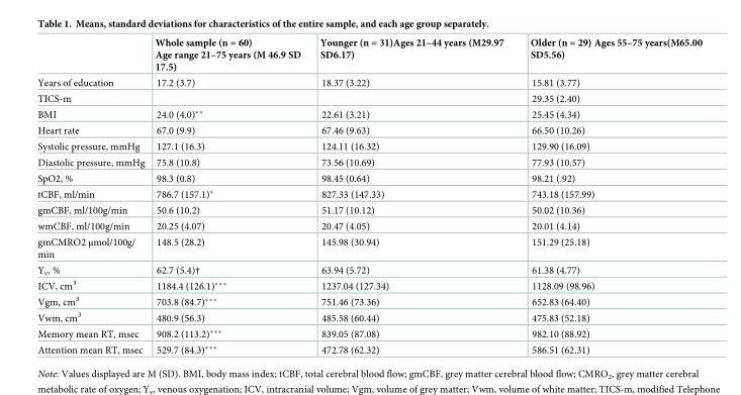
<table><thead><tr><td></td><td>Whole sample (n = 60) Age range 21–75 years (M 46.9 SD 17.5)</td><td>Younger (n = 31)Ages 21–44 years (M29.97 SD6.17)</td><td>Older (n = 29) Ages 55–75 years(M65.00 SD5.56)</td></tr></thead><tbody><tr><td>Years of education</td><td>17.2 (3.7)</td><td>18.37 (3.22)</td><td>15.81 (3.77)</td></tr><tr><td>TICS-m</td><td></td><td></td><td>29.35 (2.40)</td></tr><tr><td>BMI</td><td>24.0 (4.0)**</td><td>22.61 (3.21)</td><td>25.45 (4.34)</td></tr><tr><td>Heart rate</td><td>67.0 (9.9)</td><td>67.46 (9.63)</td><td>66.50 (10.26)</td></tr><tr><td>Systolic pressure, mmHg</td><td>127.1 (16.3)</td><td>124.11 (16.32)</td><td>129.90 (16.09)</td></tr><tr><td>Diastolic pressure, mmHg</td><td>75.8 (10.8)</td><td>73.56 (10.69)</td><td>77.93 (10.57)</td></tr><tr><td>SpO2, %</td><td>98.3 (0.8)</td><td>98.45 (0.64)</td><td>98.21 (.92)</td></tr><tr><td>tCBF, ml/min</td><td>786.7 (157.1)*</td><td>827.33 (147.33)</td><td>743.18 (157.99)</td></tr><tr><td>gmCBF, ml/100g/min</td><td>50.6 (10.2)</td><td>51.17 (10.12)</td><td>50.02 (10.36)</td></tr><tr><td>wmCBF, ml/100g/min</td><td>20.25 (4.07)</td><td>20.47 (4.05)</td><td>20.01 (4.14)</td></tr><tr><td>gmCMRO2 μmol/100g/ min</td><td>148.5 (28.2)</td><td>145.98 (30.94)</td><td>151.29 (25.18)</td></tr><tr><td>Y<sub>v</sub>, %</td><td>62.7 (5.4)†</td><td>63.94 (5.72)</td><td>61.38 (4.77)</td></tr><tr><td>ICV, cm<sup>3</sup></td><td>1184.4 (126.1)***</td><td>1237.04 (127.34)</td><td>1128.09 (98.96)</td></tr><tr><td>Vgm, cm<sup>3</sup></td><td>703.8 (84.7)***</td><td>751.46 (73.36)</td><td>652.83 (64.40)</td></tr><tr><td>Vwm, cm<sup>3</sup></td><td>480.9 (56.3)</td><td>485.58 (60.44)</td><td>475.83 (52.18)</td></tr><tr><td>Memory mean RT, msec</td><td>908.2 (113.2)***</td><td>839.05 (87.08)</td><td>982.10 (88.92)</td></tr><tr><td>Attention mean RT, msec</td><td>529.7 (84.3)***</td><td>472.78 (62.32)</td><td>586.51 (62.31)</td></tr></tbody></table>